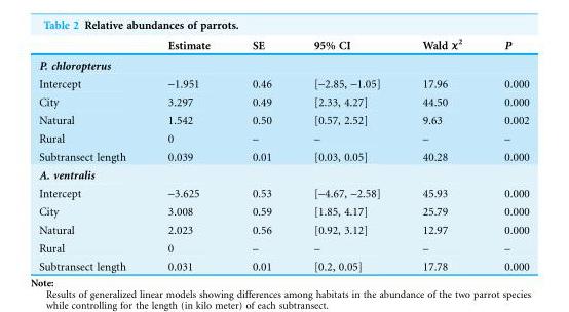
<table><thead><tr><td></td><td>Estimate</td><td>SE</td><td>95% CI</td><td>Wald ϰ<sup>2</sup></td><td>P</td></tr></thead><tbody><tr><td colspan="6">P. chloropterus</td></tr><tr><td>Intercept</td><td>-1.951</td><td>0.46</td><td>[-2.85, -1.05]</td><td>17.96</td><td>0.000</td></tr><tr><td>City</td><td>3.297</td><td>0.49</td><td>[2.33, 4.27]</td><td>44.50</td><td>0.000</td></tr><tr><td>Natural</td><td>1.542</td><td>0.50</td><td>[0.57, 2.52]</td><td>9.63</td><td>0.002</td></tr><tr><td>Rural</td><td>0</td><td>–</td><td>–</td><td>–</td><td>–</td></tr><tr><td>Subtransect length</td><td>0.039</td><td>0.01</td><td>[0.03, 0.05]</td><td>40.28</td><td>0.000</td></tr><tr><td colspan="6">A. ventralis</td></tr><tr><td>Intercept</td><td>-3.625</td><td>0.53</td><td>[-4.67, -2.58]</td><td>45.93</td><td>0.000</td></tr><tr><td>City</td><td>3.008</td><td>0.59</td><td>[1.85, 4.17]</td><td>25.79</td><td>0.000</td></tr><tr><td>Natural</td><td>2.023</td><td>0.56</td><td>[0.92, 3.12]</td><td>12.97</td><td>0.000</td></tr><tr><td>Rural</td><td>0</td><td>–</td><td>–</td><td>–</td><td>–</td></tr><tr><td>Subtransect length</td><td>0.031</td><td>0.01</td><td>[0.2, 0.05]</td><td>17.78</td><td>0.000</td></tr></tbody></table>